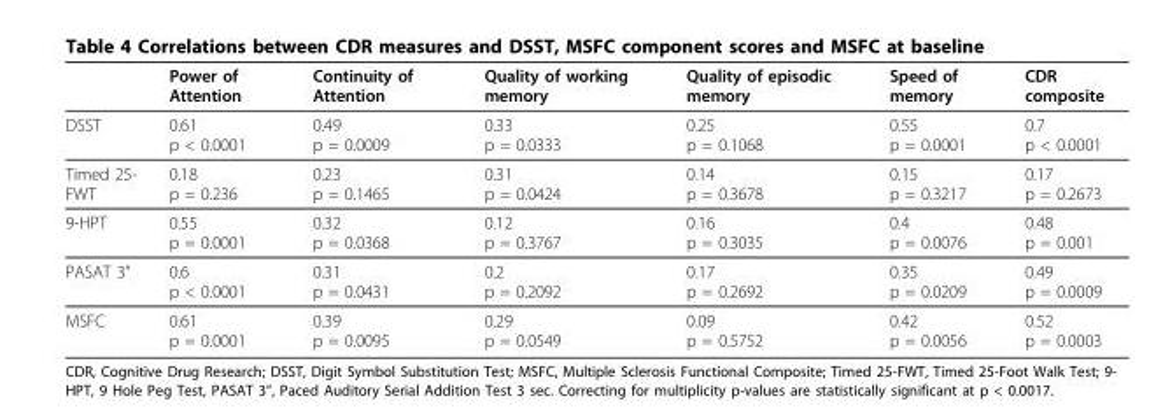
<table><thead><tr><td></td><td>Power of Attention</td><td>Continuity of Attention</td><td>Quality of working memory</td><td>Quality of episodic memory</td><td>Speed of memory</td><td>CDR composite</td></tr></thead><tbody><tr><td>DSST</td><td>0.61 p &lt; 0.0001</td><td>0.49 p = 0.0009</td><td>0.33 p = 0.0333</td><td>0.25 p = 0.1068</td><td>0.55 p = 0.0001</td><td>0.7 p &lt; 0.0001</td></tr><tr><td>Timed 25- FWT</td><td>0.18 p = 0.236</td><td>0.23 p = 0.1465</td><td>0.31 p = 0.0424</td><td>0.14 p = 0.3678</td><td>0.15 p = 0.3217</td><td>0.17 p = 0.2673</td></tr><tr><td>9-HPT</td><td>0.55 p = 0.0001</td><td>0.32 p = 0.0368</td><td>0.12 p = 0.3767</td><td>0.16 p = 0.3035</td><td>0.4 p = 0.0076</td><td>0.48 p = 0.001</td></tr><tr><td>PASAT 3”</td><td>0.6 p &lt; 0.0001</td><td>0.31 p = 0.0431</td><td>0.2 p = 0.2092</td><td>0.17 p = 0.2692</td><td>0.35 p = 0.0209</td><td>0.49 p = 0.0009</td></tr><tr><td>MSFC</td><td>0.61 p = 0.0001</td><td>0.39 p = 0.0095</td><td>0.29 p = 0.0549</td><td>0.09 p = 0.5752</td><td>0.42 p = 0.0056</td><td>0.52 p = 0.0003</td></tr></tbody></table>